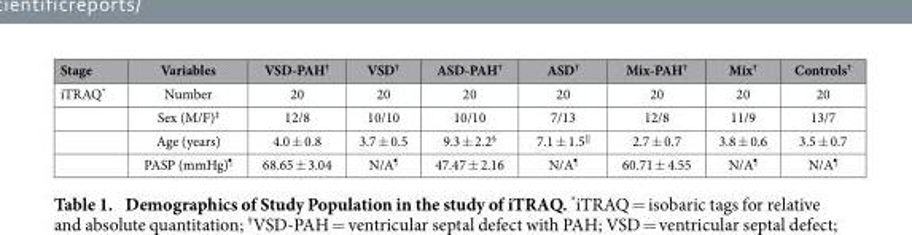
<table><thead><tr><td>Stage</td><td>Variables</td><td>VSD-PAH<sup>†</sup></td><td>VSD<sup>†</sup></td><td>ASD-PAH<sup>†</sup></td><td>ASD<sup>†</sup></td><td>Mix-PAH<sup>†</sup></td><td>Mix<sup>†</sup></td><td>Controls<sup>†</sup></td></tr></thead><tbody><tr><td rowspan="4">iTRAQ*</td><td>Number</td><td>20</td><td>20</td><td>20</td><td>20</td><td>20</td><td>20</td><td>20</td></tr><tr><td>Sex (M/F)<sup>‡</sup></td><td>12/8</td><td>10/10</td><td>10/10</td><td>7/13</td><td>12/8</td><td>11/9</td><td>13/7</td></tr><tr><td>Age (years)</td><td>4.0 ± 0.8</td><td>3.7 ± 0.5</td><td>9.3 ± 2.2<sup>§</sup></td><td>7.1 ± 1.5<sup>||</sup></td><td>2.7 ± 0.7</td><td>3.8 ± 0.6</td><td>3.5 ± 0.7</td></tr><tr><td>PASP (mmHg)¶</td><td>68.65 ± 3.04</td><td>N/A¶</td><td>47.47 ± 2.16</td><td>N/A¶</td><td>60.71 ± 4.55</td><td>N/A¶</td><td>N/A¶</td></tr></tbody></table>